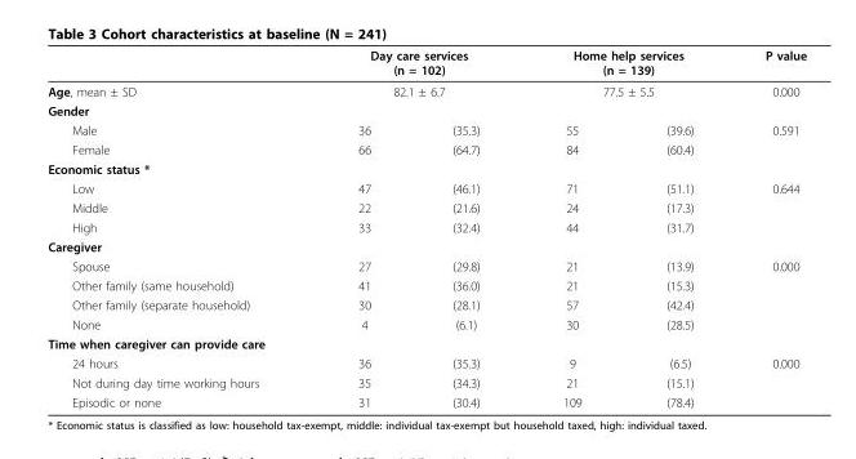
<table><thead><tr><td rowspan="3">Age, mean ± SD Gender</td><td rowspan="2" colspan="2">Day care services (n = 102) 82.1 ± 6.7</td><td rowspan="2" colspan="2">Home help services (n = 139) 77.5 ± 5.5</td><td rowspan="3">P value 0.000</td></tr><tr></tr><tr><td></td><td></td><td></td><td></td></tr></thead><tbody><tr><td>Male</td><td>36</td><td>(35.3)</td><td>55</td><td>(39.6)</td><td>0.591</td></tr><tr><td>Female</td><td>66</td><td>(64.7)</td><td>84</td><td>(60.4)</td><td></td></tr><tr><td colspan="6">Economic status *</td></tr><tr><td>Low</td><td>47</td><td>(46.1)</td><td>71</td><td>(51.1)</td><td>0.644</td></tr><tr><td>Middle</td><td>22</td><td>(21.6)</td><td>24</td><td>(17.3)</td><td></td></tr><tr><td>High</td><td>33</td><td>(32.4)</td><td>44</td><td>(31.7)</td><td></td></tr><tr><td colspan="6">Caregiver</td></tr><tr><td>Spouse</td><td>27</td><td>(29.8)</td><td>21</td><td>(13.9)</td><td>0.000</td></tr><tr><td>Other family (same household)</td><td>41</td><td>(36.0)</td><td>21</td><td>(15.3)</td><td></td></tr><tr><td>Other family (separate household)</td><td>30</td><td>(28.1)</td><td>57</td><td>(42.4)</td><td></td></tr><tr><td>None</td><td>4</td><td>(6.1)</td><td>30</td><td>(28.5)</td><td></td></tr><tr><td colspan="6">Time when caregiver can provide care</td></tr><tr><td>24 hours</td><td>36</td><td>(35.3)</td><td>9</td><td>(6.5)</td><td>0.000</td></tr><tr><td>Not during day time working hours</td><td>35</td><td>(34.3)</td><td>21</td><td>(15.1)</td><td></td></tr><tr><td>Episodic or none</td><td>31</td><td>(30.4)</td><td>109</td><td>(78.4)</td><td></td></tr></tbody></table>